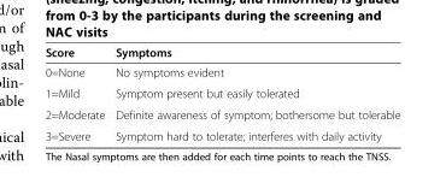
<table><thead><tr><td>Score</td><td>Symptoms</td></tr></thead><tbody><tr><td>0=None</td><td>No symptoms evident</td></tr><tr><td>1=Mild</td><td>Symptom present but easily tolerated</td></tr><tr><td>2=Moderate</td><td>Definite awareness of symptom; bothersome but tolerable</td></tr><tr><td>3=Severe</td><td>Symptom hard to tolerate; interferes with daily activity</td></tr></tbody></table>